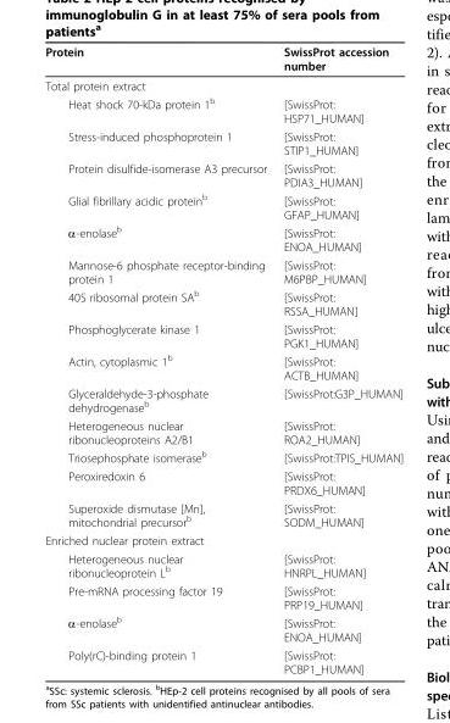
<table><thead><tr><td>Protein</td><td>SwissProt accession number</td></tr></thead><tbody><tr><td colspan="2">Total protein extract</td></tr><tr><td>Heat shock 70-kDa protein 1<sup>b</sup></td><td>[SwissProt: HSP71_HUMAN]</td></tr><tr><td>Stress-induced phosphoprotein 1</td><td>[SwissProt: STIP1_HUMAN]</td></tr><tr><td>Protein disulfide-isomerase A3 precursor</td><td>[SwissProt: PDIA3_HUMAN]</td></tr><tr><td>Glial fibrillary acidic protein<sup>b</sup></td><td>[SwissProt: GFAP_HUMAN]</td></tr><tr><td>α-enolase<sup>b</sup></td><td>[SwissProt: ENOA_HUMAN]</td></tr><tr><td>Mannose-6 phosphate receptor-binding protein 1</td><td>[SwissProt: M6PBP_HUMAN]</td></tr><tr><td>40S ribosomal protein SA<sup>b</sup></td><td>[SwissProt: RSSA_HUMAN]</td></tr><tr><td>Phosphoglycerate kinase 1</td><td>[SwissProt: PGK1_HUMAN]</td></tr><tr><td>Actin, cytoplasmic 1<sup>b</sup></td><td>[SwissProt: ACTB_HUMAN]</td></tr><tr><td>Glyceraldehyde-3-phosphate dehydrogenase<sup>b</sup></td><td>[SwissProt:G3P_HUMAN]</td></tr><tr><td>Heterogeneous nuclear ribonucleoproteins A2/B1</td><td>[SwissProt: ROA2_HUMAN]</td></tr><tr><td>Triosephosphate isomerase<sup>b</sup></td><td>[SwissProt:TPIS_HUMAN]</td></tr><tr><td>Peroxiredoxin 6</td><td>[SwissProt: PRDX6_HUMAN]</td></tr><tr><td>Superoxide dismutase [Mn], mitochondrial precursor<sup>b</sup></td><td>[SwissProt: SODM_HUMAN]</td></tr><tr><td colspan="2">Enriched nuclear protein extract</td></tr><tr><td>Heterogeneous nuclear ribonucleoprotein L<sup>b</sup></td><td>[SwissProt: HNRPL_HUMAN]</td></tr><tr><td>Pre-mRNA processing factor 19</td><td>[SwissProt: PRP19_HUMAN]</td></tr><tr><td>α-enolase<sup>b</sup></td><td>[SwissProt: ENOA_HUMAN]</td></tr><tr><td>Poly(rC)-binding protein 1</td><td>[SwissProt: PCBP1_HUMAN]</td></tr></tbody></table>